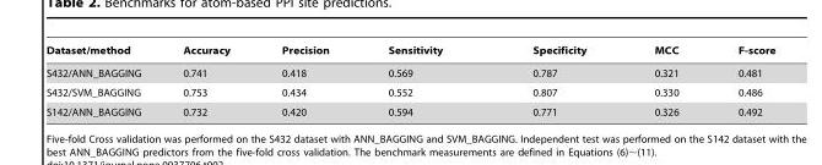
<table><thead><tr><td>Dataset/method</td><td>Accuracy</td><td>Precision</td><td>Sensitivity</td><td>Specificity</td><td>MCC</td><td>F-score</td></tr></thead><tbody><tr><td>S432/ANN_BAGGING</td><td>0.741</td><td>0.418</td><td>0.569</td><td>0.787</td><td>0.321</td><td>0.481</td></tr><tr><td>S432/SVM_BAGGING</td><td>0.753</td><td>0.434</td><td>0.552</td><td>0.807</td><td>0.330</td><td>0.486</td></tr><tr><td>S142/ANN_BAGGING</td><td>0.732</td><td>0.420</td><td>0.594</td><td>0.771</td><td>0.326</td><td>0.492</td></tr></tbody></table>